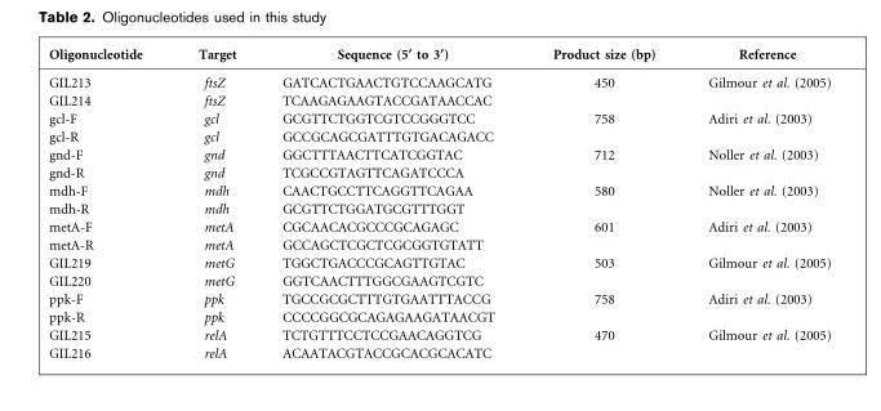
<table><thead><tr><td>Oligonucleotide</td><td>Target</td><td>Sequence (5§ to 3§)</td><td>Product size (bp)</td><td>Reference</td></tr></thead><tbody><tr><td>GIL213</td><td>ftsZ</td><td>GATCACTGAACTGTCCAAGCATG</td><td>450</td><td>Gilmour et al. (2005)</td></tr><tr><td>GIL214</td><td>ftsZ</td><td>TCAAGAGAAGTACCGATAACCAC</td><td></td><td></td></tr><tr><td>gcl-F</td><td>gcl</td><td>GCGTTCTGGTCGTCCGGGTCC</td><td>758</td><td>Adiri et al. (2003)</td></tr><tr><td>gcl-R</td><td>gcl</td><td>GCCGCAGCGATTTGTGACAGACC</td><td></td><td></td></tr><tr><td>gnd-F</td><td>gnd</td><td>GGCTTTAACTTCATCGGTAC</td><td>712</td><td>Noller et al. (2003)</td></tr><tr><td>gnd-R</td><td>gnd</td><td>TCGCCGTAGTTCAGATCCCA</td><td></td><td></td></tr><tr><td>mdh-F</td><td>mdh</td><td>CAACTGCCTTCAGGTTCAGAA</td><td>580</td><td>Noller et al. (2003)</td></tr><tr><td>mdh-R</td><td>mdh</td><td>GCGTTCTGGATGCGTTTGGT</td><td></td><td></td></tr><tr><td>metA-F</td><td>metA</td><td>CGCAACACGCCCGCAGAGC</td><td>601</td><td>Adiri et al. (2003)</td></tr><tr><td>metA-R</td><td>metA</td><td>GCCAGCTCGCTCGCGGTGTATT</td><td></td><td></td></tr><tr><td>GIL219</td><td>metG</td><td>TGGCTGACCCGCAGTTGTAC</td><td>503</td><td>Gilmour et al. (2005)</td></tr><tr><td>GIL220</td><td>metG</td><td>GGTCAACTTTGGCGAAGTCGTC</td><td></td><td></td></tr><tr><td>ppk-F</td><td>ppk</td><td>TGCCGCGCTTTGTGAATTTACCG</td><td>758</td><td>Adiri et al. (2003)</td></tr><tr><td>ppk-R</td><td>ppk</td><td>CCCCGGCGCAGAGAAGATAACGT</td><td></td><td></td></tr><tr><td>GIL215</td><td>relA</td><td>TCTGTTTCCTCCGAACAGGTCG</td><td>470</td><td>Gilmour et al. (2005)</td></tr><tr><td>GIL216</td><td>relA</td><td>ACAATACGTACCGCACGCACATC</td><td></td><td></td></tr></tbody></table>